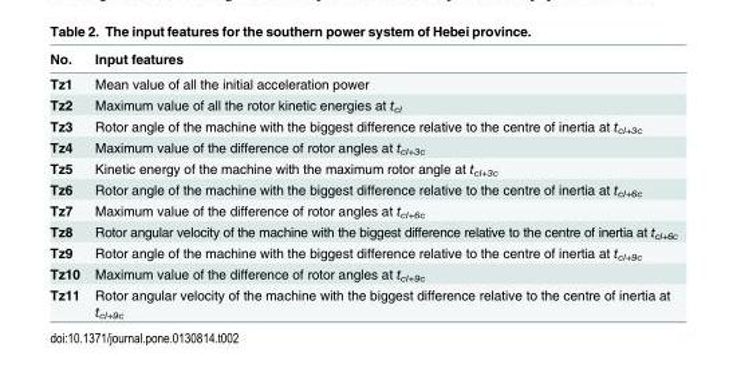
<table><thead><tr><td>No.</td><td>Input features</td></tr></thead><tbody><tr><td>Tz1</td><td>Mean value of all the initial acceleration power</td></tr><tr><td>Tz2</td><td>Maximum value of all the rotor kinetic energies at t<sub>cl</sub></td></tr><tr><td>Tz3</td><td>Rotor angle of the machine with the biggest difference relative to the centre of inertia at t<sub>cl+3c</sub></td></tr><tr><td>Tz4</td><td>Maximum value of the difference of rotor angles at t<sub>cl+3c</sub></td></tr><tr><td>Tz5</td><td>Kinetic energy of the machine with the maximum rotor angle at t<sub>cl+3c</sub></td></tr><tr><td>Tz6</td><td>Rotor angle of the machine with the biggest difference relative to the centre of inertia at t<sub>cl+6c</sub></td></tr><tr><td>Tz7</td><td>Maximum value of the difference of rotor angles at t<sub>cl+6c</sub></td></tr><tr><td>Tz8</td><td>Rotor angular velocity of the machine with the biggest difference relative to the centre of inertia at t<sub>cl+6c</sub></td></tr><tr><td>Tz9</td><td>Rotor angle of the machine with the biggest difference relative to the centre of inertia at t<sub>cl+9c</sub></td></tr><tr><td>Tz10</td><td>Maximum value of the difference of rotor angles at t<sub>cl+9c</sub></td></tr><tr><td>Tz11</td><td>Rotor angular velocity of the machine with the biggest difference relative to the centre of inertia at t<sub>cl+9c</sub></td></tr></tbody></table>